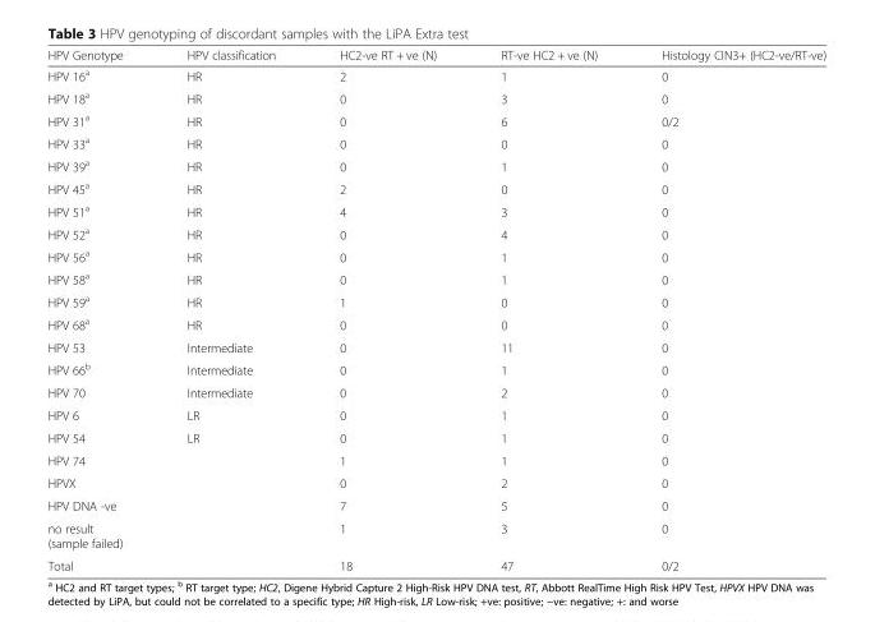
<table><thead><tr><td>HPV Genotype</td><td>HPV classification</td><td>HC2-ve RT + ve (N)</td><td>RT-ve HC2 + ve (N)</td><td>Histology CIN3+ (HC2-ve/RT-ve)</td></tr></thead><tbody><tr><td>HPV 16<sup>a</sup></td><td>HR</td><td>2</td><td>1</td><td>0</td></tr><tr><td>HPV 18<sup>a</sup></td><td>HR</td><td>0</td><td>3</td><td>0</td></tr><tr><td>HPV 31<sup>a</sup></td><td>HR</td><td>0</td><td>6</td><td>0/2</td></tr><tr><td>HPV 33<sup>a</sup></td><td>HR</td><td>0</td><td>0</td><td>0</td></tr><tr><td>HPV 39<sup>a</sup></td><td>HR</td><td>0</td><td>1</td><td>0</td></tr><tr><td>HPV 45<sup>a</sup></td><td>HR</td><td>2</td><td>0</td><td>0</td></tr><tr><td>HPV 51<sup>a</sup></td><td>HR</td><td>4</td><td>3</td><td>0</td></tr><tr><td>HPV 52<sup>a</sup></td><td>HR</td><td>0</td><td>4</td><td>0</td></tr><tr><td>HPV 56<sup>a</sup></td><td>HR</td><td>0</td><td>1</td><td>0</td></tr><tr><td>HPV 58<sup>a</sup></td><td>HR</td><td>0</td><td>1</td><td>0</td></tr><tr><td>HPV 59<sup>a</sup></td><td>HR</td><td>1</td><td>0</td><td>0</td></tr><tr><td>HPV 68<sup>a</sup></td><td>HR</td><td>0</td><td>0</td><td>0</td></tr><tr><td>HPV 53</td><td>Intermediate</td><td>0</td><td>11</td><td>0</td></tr><tr><td>HPV 66<sup>b</sup></td><td>Intermediate</td><td>0</td><td>1</td><td>0</td></tr><tr><td>HPV 70</td><td>Intermediate</td><td>0</td><td>2</td><td>0</td></tr><tr><td>HPV 6</td><td>LR</td><td>0</td><td>1</td><td>0</td></tr><tr><td>HPV 54</td><td>LR</td><td>0</td><td>1</td><td>0</td></tr><tr><td>HPV 74</td><td></td><td>1</td><td>1</td><td>0</td></tr><tr><td>HPVX</td><td></td><td>0</td><td>2</td><td>0</td></tr><tr><td>HPV DNA -ve</td><td></td><td>7</td><td>5</td><td>0</td></tr><tr><td>no result (sample failed)</td><td></td><td>1</td><td>3</td><td>0</td></tr><tr><td>Total</td><td></td><td>18</td><td>47</td><td>0/2</td></tr></tbody></table>